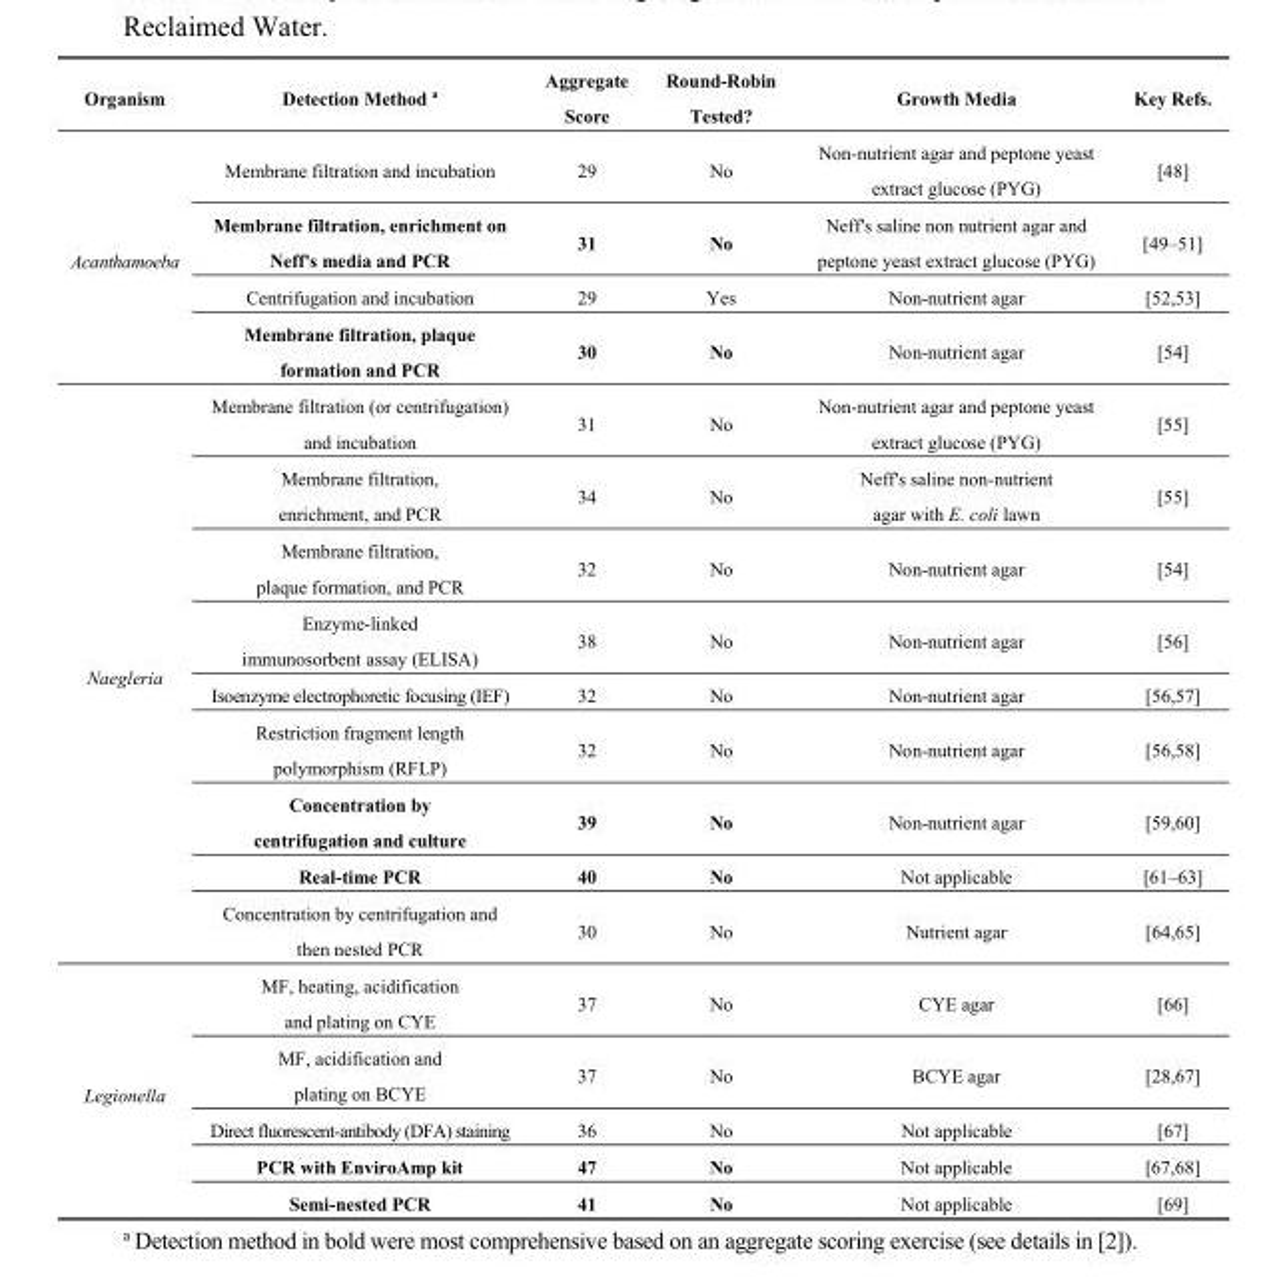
<table><thead><tr><td>Organism</td><td>Detection Method <sup>a</sup></td><td>Aggregate Score</td><td>Round-Robin Tested?</td><td>Growth Media</td><td>Key Refs.</td></tr></thead><tbody><tr><td rowspan="4">Acanthamoeba</td><td>Membrane filtration and incubation</td><td>29</td><td>No</td><td>Non-nutrient agar and peptone yeast extract glucose (PYG)</td><td>[48]</td></tr><tr><td>Membrane filtration, enrichment on Neff&#x27;s media and PCR</td><td>31</td><td>No</td><td>Neff&#x27;s saline non nutrient agar and peptone yeast extract glucose (PYG)</td><td>[49–51]</td></tr><tr><td>Centrifugation and incubation</td><td>29</td><td>Yes</td><td>Non-nutrient agar</td><td>[52,53]</td></tr><tr><td>Membrane filtration, plaque formation and PCR</td><td>30</td><td>No</td><td>Non-nutrient agar</td><td>[54]</td></tr><tr><td rowspan="9">Naegleria</td><td>Membrane filtration (or centrifugation) and incubation</td><td>31</td><td>No</td><td>Non-nutrient agar and peptone yeast extract glucose (PYG)</td><td>[55]</td></tr><tr><td>Membrane filtration, enrichment, and PCR</td><td>34</td><td>No</td><td>Neff&#x27;s saline non-nutrient agar with E. coli lawn</td><td>[55]</td></tr><tr><td>Membrane filtration, plaque formation, and PCR</td><td>32</td><td>No</td><td>Non-nutrient agar</td><td>[54]</td></tr><tr><td>Enzyme-linked immunosorbent assay (ELISA)</td><td>38</td><td>No</td><td>Non-nutrient agar</td><td>[56]</td></tr><tr><td>Isoenzyme electrophoretic focusing (IEF)</td><td>32</td><td>No</td><td>Non-nutrient agar</td><td>[56,57]</td></tr><tr><td>Restriction fragment length polymorphism (RFLP)</td><td>32</td><td>No</td><td>Non-nutrient agar</td><td>[56,58]</td></tr><tr><td>Concentration by centrifugation and culture</td><td>39</td><td>No</td><td>Non-nutrient agar</td><td>[59,60]</td></tr><tr><td>Real-time PCR</td><td>40</td><td>No</td><td>Not applicable</td><td>[61–63]</td></tr><tr><td>Concentration by centrifugation and then nested PCR</td><td>30</td><td>No</td><td>Nutrient agar</td><td>[64,65]</td></tr><tr><td rowspan="5">Legionella</td><td>MF, heating, acidification and plating on CYE</td><td>37</td><td>No</td><td>CYE agar</td><td>[66]</td></tr><tr><td>MF, acidification and plating on BCYE</td><td>37</td><td>No</td><td>BCYE agar</td><td>[28,67]</td></tr><tr><td>Direct fluorescent-antibody (DFA) staining</td><td>36</td><td>No</td><td>Not applicable</td><td>[67]</td></tr><tr><td>PCR with EnviroAmp kit</td><td>47</td><td>No</td><td>Not applicable</td><td>[67,68]</td></tr><tr><td>Semi-nested PCR</td><td>41</td><td>No</td><td>Not applicable</td><td>[69]</td></tr></tbody></table>